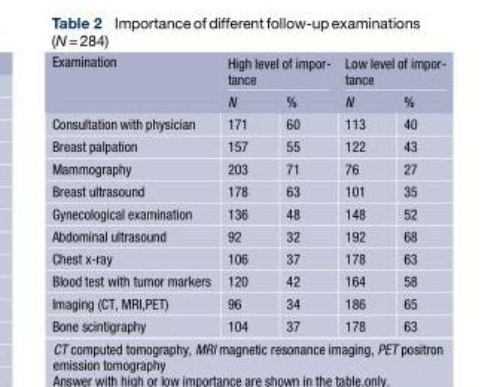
<table><thead><tr><td rowspan="2">Examination</td><td colspan="2">High level of impor- tance</td><td colspan="2">Low level of impor- tance</td></tr><tr><td>N</td><td>%</td><td>N</td><td>%</td></tr></thead><tbody><tr><td>Consultation with physician</td><td>171</td><td>60</td><td>113</td><td>40</td></tr><tr><td>Breast palpation</td><td>157</td><td>55</td><td>122</td><td>43</td></tr><tr><td>Mammography</td><td>203</td><td>71</td><td>76</td><td>27</td></tr><tr><td>Breast ultrasound</td><td>178</td><td>63</td><td>101</td><td>35</td></tr><tr><td>Gynecological examination</td><td>136</td><td>48</td><td>148</td><td>52</td></tr><tr><td>Abdominal ultrasound</td><td>92</td><td>32</td><td>192</td><td>68</td></tr><tr><td>Chest x-ray</td><td>106</td><td>37</td><td>178</td><td>63</td></tr><tr><td>Blood test with tumor markers</td><td>120</td><td>42</td><td>164</td><td>58</td></tr><tr><td>Imaging (CT, MRI,PET)</td><td>96</td><td>34</td><td>186</td><td>65</td></tr><tr><td>Bone scintigraphy</td><td>104</td><td>37</td><td>178</td><td>63</td></tr></tbody></table>